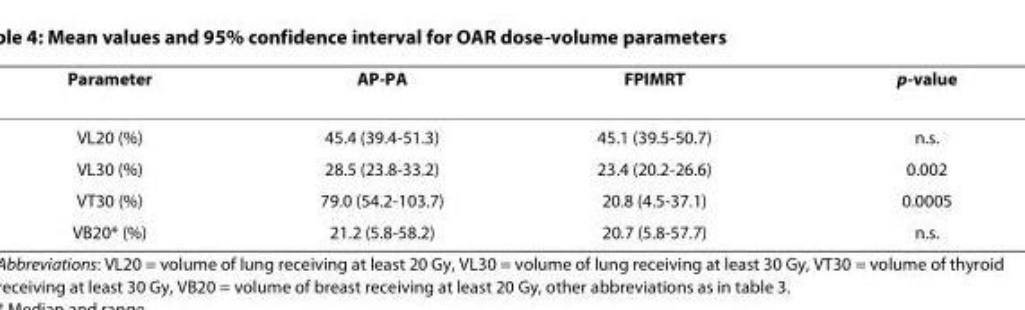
<table><thead><tr><td>Parameter</td><td>AP-PA</td><td>FPIMRT</td><td>p-value</td></tr></thead><tbody><tr><td>VL20 (%)</td><td>45.4 (39.4-51.3)</td><td>45.1 (39.5-50.7)</td><td>n.s.</td></tr><tr><td>VL30 (%)</td><td>28.5 (23.8-33.2)</td><td>23.4 (20.2-26.6)</td><td>0.002</td></tr><tr><td>VT30 (%)</td><td>79.0 (54.2-103.7)</td><td>20.8 (4.5-37.1)</td><td>0.0005</td></tr><tr><td>VB20* (%)</td><td>21.2 (5.8-58.2)</td><td>20.7 (5.8-57.7)</td><td>n.s.</td></tr></tbody></table>